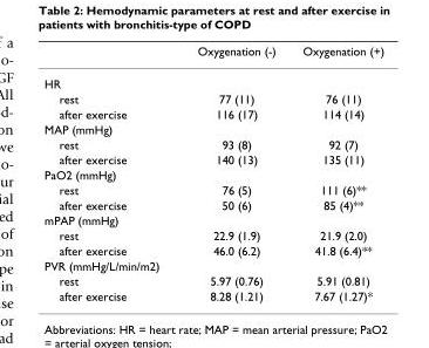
<table><thead><tr><td></td><td>Oxygenation (-)</td><td>Oxygenation (+)</td></tr></thead><tbody><tr><td colspan="3">HR</td></tr><tr><td>rest</td><td>77 (11)</td><td>76 (11)</td></tr><tr><td>after exercise</td><td>116 (17)</td><td>114 (14)</td></tr><tr><td colspan="3">MAP (mmHg)</td></tr><tr><td>rest</td><td>93 (8)</td><td>92 (7)</td></tr><tr><td>after exercise</td><td>140 (13)</td><td>135 (11)</td></tr><tr><td colspan="3">PaO2 (mmHg)</td></tr><tr><td>rest</td><td>76 (5)</td><td>111 (6)**</td></tr><tr><td>after exercise</td><td>50 (6)</td><td>85 (4)**</td></tr><tr><td colspan="3">mPAP (mmHg)</td></tr><tr><td>rest</td><td>22.9 (1.9)</td><td>21.9 (2.0)</td></tr><tr><td>after exercise</td><td>46.0 (6.2)</td><td>41.8 (6.4)**</td></tr><tr><td colspan="3">PVR (mmHg/L/min/m2)</td></tr><tr><td>rest</td><td>5.97 (0.76)</td><td>5.91 (0.81)</td></tr><tr><td>after exercise</td><td>8.28 (1.21)</td><td>7.67 (1.27)*</td></tr></tbody></table>